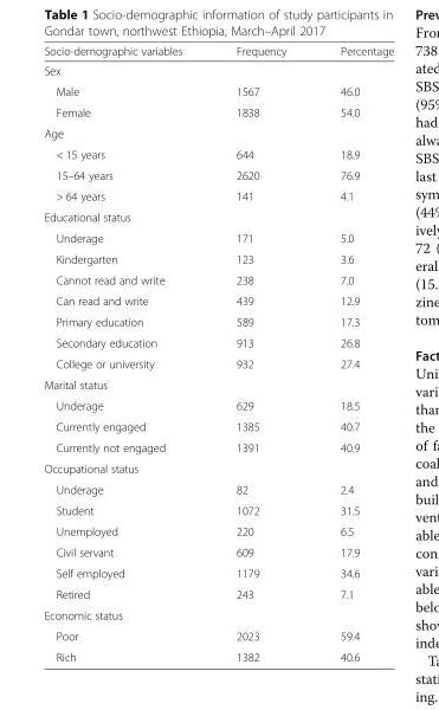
<table><thead><tr><td>Socio-demographic variables</td><td>Frequency</td><td>Percentage</td></tr></thead><tbody><tr><td colspan="3">Sex</td></tr><tr><td>Male</td><td>1567</td><td>46.0</td></tr><tr><td>Female</td><td>1838</td><td>54.0</td></tr><tr><td colspan="3">Age</td></tr><tr><td>&lt; 15 years</td><td>644</td><td>18.9</td></tr><tr><td>15–64 years</td><td>2620</td><td>76.9</td></tr><tr><td>&gt; 64 years</td><td>141</td><td>4.1</td></tr><tr><td colspan="3">Educational status</td></tr><tr><td>Underage</td><td>171</td><td>5.0</td></tr><tr><td>Kindergarten</td><td>123</td><td>3.6</td></tr><tr><td>Cannot read and write</td><td>238</td><td>7.0</td></tr><tr><td>Can read and write</td><td>439</td><td>12.9</td></tr><tr><td>Primary education</td><td>589</td><td>17.3</td></tr><tr><td>Secondary education</td><td>913</td><td>26.8</td></tr><tr><td>College or university</td><td>932</td><td>27.4</td></tr><tr><td colspan="3">Marital status</td></tr><tr><td>Underage</td><td>629</td><td>18.5</td></tr><tr><td>Currently engaged</td><td>1385</td><td>40.7</td></tr><tr><td>Currently not engaged</td><td>1391</td><td>40.9</td></tr><tr><td colspan="3">Occupational status</td></tr><tr><td>Underage</td><td>82</td><td>2.4</td></tr><tr><td>Student</td><td>1072</td><td>31.5</td></tr><tr><td>Unemployed</td><td>220</td><td>6.5</td></tr><tr><td>Civil servant</td><td>609</td><td>17.9</td></tr><tr><td>Self employed</td><td>1179</td><td>34.6</td></tr><tr><td>Retired</td><td>243</td><td>7.1</td></tr><tr><td colspan="3">Economic status</td></tr><tr><td>Poor</td><td>2023</td><td>59.4</td></tr><tr><td>Rich</td><td>1382</td><td>40.6</td></tr></tbody></table>